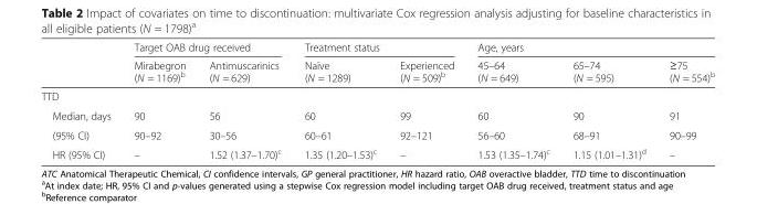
<table><thead><tr><td rowspan="2"></td><td colspan="2">Target OAB drug received</td><td colspan="2">Treatment status</td><td colspan="3">Age, years</td></tr><tr><td>Mirabegron (N = 1169)<sup>b</sup></td><td>Antimuscarinics (N = 629)</td><td>Naïve (N = 1289)</td><td>Experienced (N = 509)<sup>b</sup></td><td>45–64 (N = 649)</td><td>65–74 (N = 595)</td><td>≥75 (N = 554)<sup>b</sup></td></tr></thead><tbody><tr><td colspan="8">TTD</td></tr><tr><td>Median, days</td><td>90</td><td>56</td><td>60</td><td>99</td><td>60</td><td>90</td><td>91</td></tr><tr><td>(95% CI)</td><td>90–92</td><td>30–56</td><td>60–61</td><td>92–121</td><td>56–60</td><td>68–91</td><td>90–99</td></tr><tr><td>HR (95% CI)</td><td>–</td><td>1.52 (1.37–1.70)<sup>c</sup></td><td>1.35 (1.20–1.53)<sup>c</sup></td><td>–</td><td>1.53 (1.35–1.74)<sup>c</sup></td><td>1.15 (1.01–1.31)<sup>d</sup></td><td>–</td></tr></tbody></table>